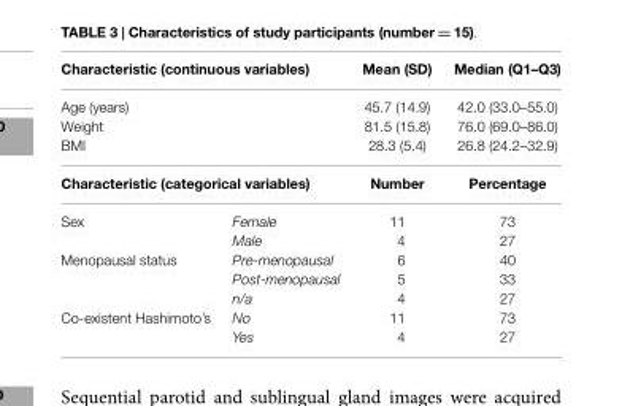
<table><thead><tr><td colspan="2">Characteristic (continuous variables)</td><td rowspan="2">Mean (SD) 45.7 (14.9)</td><td rowspan="2">Median (Q1–Q3) 42.0 (33.0–55.0)</td></tr><tr><td>Age (years)</td><td></td></tr></thead><tbody><tr><td>Weight</td><td></td><td>81.5 (15.8)</td><td>76.0 (69.0–86.0)</td></tr><tr><td>BMI</td><td></td><td>28.3 (5.4)</td><td>26.8 (24.2–32.9)</td></tr><tr><td colspan="2">Characteristic (categorical variables)</td><td>Number</td><td>Percentage</td></tr><tr><td rowspan="2">Sex</td><td>Female</td><td>11</td><td>73</td></tr><tr><td>Male</td><td>4</td><td>27</td></tr><tr><td rowspan="3">Menopausal status</td><td>Pre-menopausal</td><td>6</td><td>40</td></tr><tr><td>Post-menopausal</td><td>5</td><td>33</td></tr><tr><td>n/a</td><td>4</td><td>27</td></tr><tr><td rowspan="2">Co-existent Hashimoto’s</td><td>No</td><td>11</td><td>73</td></tr><tr><td>Yes</td><td>4</td><td>27</td></tr></tbody></table>